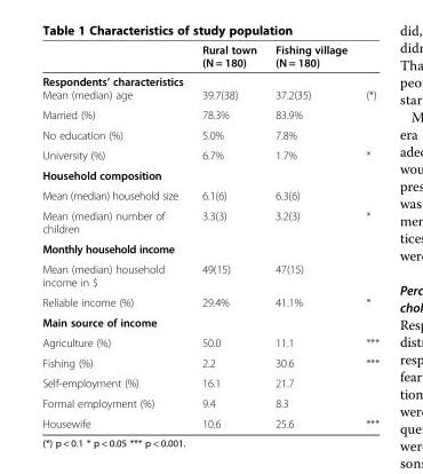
<table><thead><tr><td></td><td>Rural town (N = 180)</td><td>Fishing village (N = 180)</td><td></td></tr></thead><tbody><tr><td colspan="4">Respondents’ characteristics</td></tr><tr><td>Mean (median) age</td><td>39.7(38)</td><td>37.2(35)</td><td>(*)</td></tr><tr><td>Married (%)</td><td>78.3%</td><td>83.9%</td><td></td></tr><tr><td>No education (%)</td><td>5.0%</td><td>7.8%</td><td></td></tr><tr><td>University (%)</td><td>6.7%</td><td>1.7%</td><td>*</td></tr><tr><td colspan="4">Household composition</td></tr><tr><td>Mean (median) household size</td><td>6.1(6)</td><td>6.3(6)</td><td></td></tr><tr><td>Mean (median) number of children</td><td>3.3(3)</td><td>3.2(3)</td><td>*</td></tr><tr><td colspan="4">Monthly household income</td></tr><tr><td>Mean (median) household income in $</td><td>49(15)</td><td>47(15)</td><td></td></tr><tr><td>Reliable income (%)</td><td>29.4%</td><td>41.1%</td><td>*</td></tr><tr><td colspan="4">Main source of income</td></tr><tr><td>Agriculture (%)</td><td>50.0</td><td>11.1</td><td>***</td></tr><tr><td>Fishing (%)</td><td>2.2</td><td>30.6</td><td>***</td></tr><tr><td>Self-employment (%)</td><td>16.1</td><td>21.7</td><td></td></tr><tr><td>Formal employment (%)</td><td>9.4</td><td>8.3</td><td></td></tr><tr><td>Housewife</td><td>10.6</td><td>25.6</td><td>***</td></tr></tbody></table>